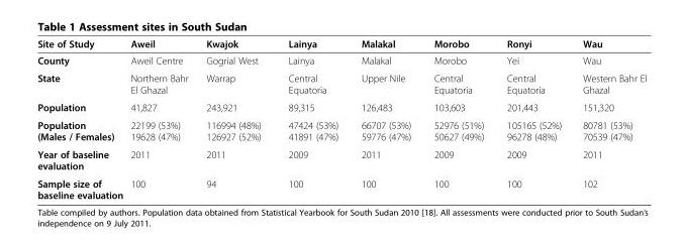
<table><thead><tr><td>Site of Study</td><td>Aweil</td><td>Kwajok</td><td>Lainya</td><td>Malakal</td><td>Morobo</td><td>Ronyi</td><td>Wau</td></tr></thead><tbody><tr><td>County</td><td>Aweil Centre</td><td>Gogrial West</td><td>Lainya</td><td>Malakal</td><td>Morobo</td><td>Yei</td><td>Wau</td></tr><tr><td>State</td><td>Northern Bahr El Ghazal</td><td>Warrap</td><td>Central Equatoria</td><td>Upper Nile</td><td>Central Equatoria</td><td>Central Equatoria</td><td>Western Bahr El Ghazal</td></tr><tr><td>Population</td><td>41,827</td><td>243,921</td><td>89,315</td><td>126,483</td><td>103,603</td><td>201,443</td><td>151,320</td></tr><tr><td>Population (Males / Females)</td><td>22199 (53%) 19628 (47%)</td><td>116994 (48%) 126927 (52%)</td><td>47424 (53%) 41891 (47%)</td><td>66707 (53%) 59776 (47%)</td><td>52976 (51%) 50627 (49%)</td><td>105165 (52%) 96278 (48%)</td><td>80781 (53%) 70539 (47%)</td></tr><tr><td>Year of baseline evaluation</td><td>2011</td><td>2011</td><td>2009</td><td>2011</td><td>2009</td><td>2009</td><td>2011</td></tr><tr><td>Sample size of baseline evaluation</td><td>100</td><td>94</td><td>100</td><td>100</td><td>100</td><td>100</td><td>102</td></tr></tbody></table>